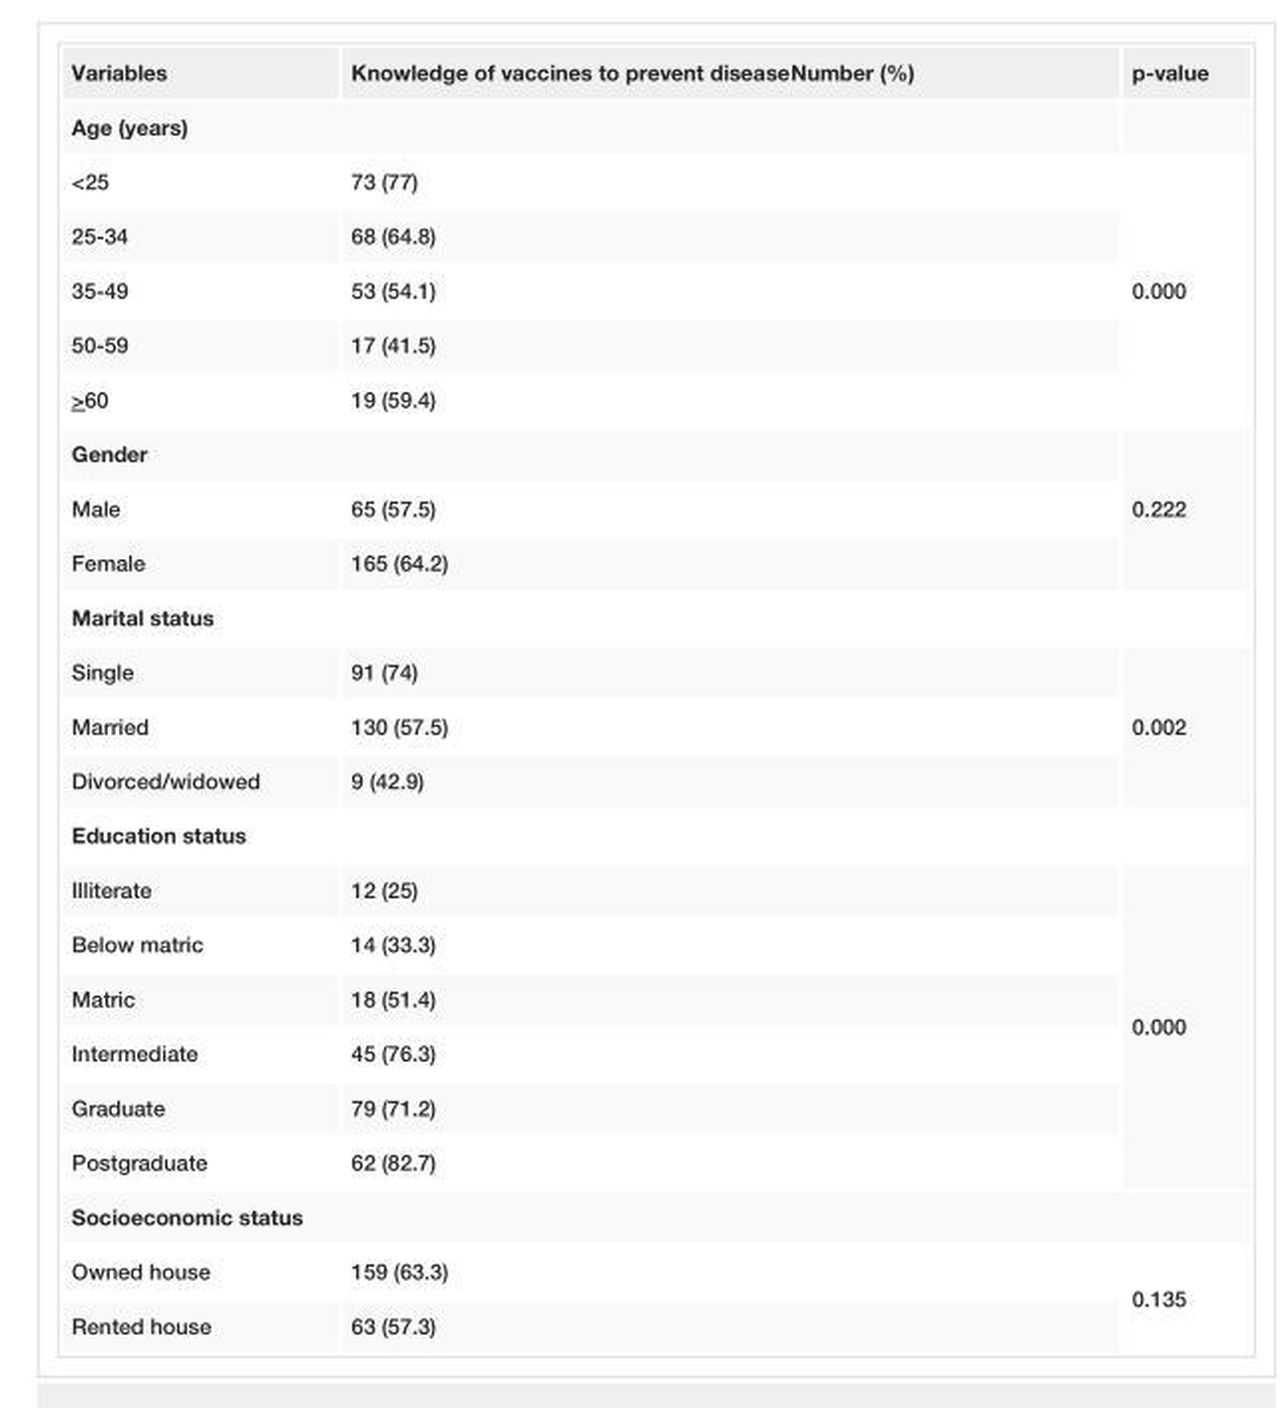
<table><tbody><tr><td>Variables</td><td>Knowledge of vaccines to prevent disease Number (%)</td><td>p-value</td></tr><tr><td colspan="3">Age (years)</td></tr><tr><td>&lt;25</td><td>73 (77)</td><td rowspan="5">0.000</td></tr><tr><td>25-34</td><td>68 (64.8)</td></tr><tr><td>35-49</td><td>53 (54.1)</td></tr><tr><td>50-59</td><td>17 (41.5)</td></tr><tr><td>&gt;60</td><td>19 (59.4)</td></tr><tr><td colspan="2">Gender</td><td rowspan="3">0.222</td></tr><tr><td>Male</td><td>65 (57.5)</td></tr><tr><td>Female</td><td>165 (64.2)</td></tr><tr><td colspan="3">Marital status</td></tr><tr><td>Single</td><td>91 (74)</td><td rowspan="3">0.002</td></tr><tr><td>Married</td><td>130 (57.5)</td></tr><tr><td>Divorced/widowed</td><td>9 (42.9)</td></tr><tr><td colspan="3">Education status</td></tr><tr><td>Illiterate</td><td>12 (25)</td><td rowspan="6">0.000</td></tr><tr><td>Below matric</td><td>14 (33.3)</td></tr><tr><td>Matric</td><td>18 (51.4)</td></tr><tr><td>Intermediate</td><td>45 (76.3)</td></tr><tr><td>Graduate</td><td>79 (71.2)</td></tr><tr><td>Postgraduate</td><td>62 (82.7)</td></tr><tr><td colspan="3">Socioeconomic status</td></tr><tr><td>Owned house</td><td>159 (63.3)</td><td rowspan="2">0.135</td></tr><tr><td>Rented house</td><td>63 (57.3)</td></tr></tbody></table>